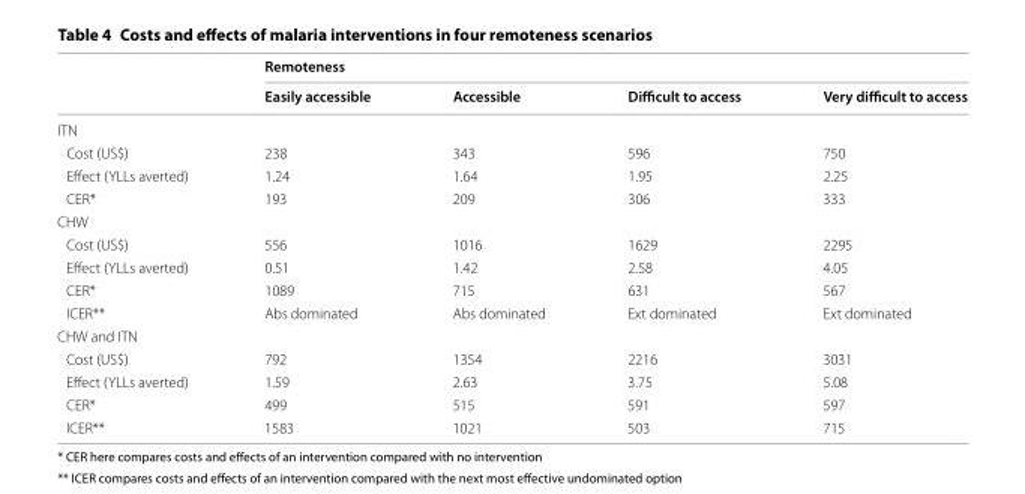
<table><thead><tr><td rowspan="2"></td><td colspan="4">Remoteness</td></tr><tr><td>Easily accessible</td><td>Accessible</td><td>Difficult to access</td><td>Very difficult to access</td></tr></thead><tbody><tr><td colspan="5">ITN</td></tr><tr><td>Cost (US$)</td><td>238</td><td>343</td><td>596</td><td>750</td></tr><tr><td>Effect (YLLs averted)</td><td>1.24</td><td>1.64</td><td>1.95</td><td>2.25</td></tr><tr><td>CER*</td><td>193</td><td>209</td><td>306</td><td>333</td></tr><tr><td colspan="5">CHW</td></tr><tr><td>Cost (US$)</td><td>556</td><td>1016</td><td>1629</td><td>2295</td></tr><tr><td>Effect (YLLs averted)</td><td>0.51</td><td>1.42</td><td>2.58</td><td>4.05</td></tr><tr><td>CER*</td><td>1089</td><td>715</td><td>631</td><td>567</td></tr><tr><td>ICER**</td><td>Abs dominated</td><td>Abs dominated</td><td>Ext dominated</td><td>Ext dominated</td></tr><tr><td colspan="5">CHW and ITN</td></tr><tr><td>Cost (US$)</td><td>792</td><td>1354</td><td>2216</td><td>3031</td></tr><tr><td>Effect (YLLs averted)</td><td>1.59</td><td>2.63</td><td>3.75</td><td>5.08</td></tr><tr><td>CER*</td><td>499</td><td>515</td><td>591</td><td>597</td></tr><tr><td>ICER**</td><td>1583</td><td>1021</td><td>503</td><td>715</td></tr></tbody></table>